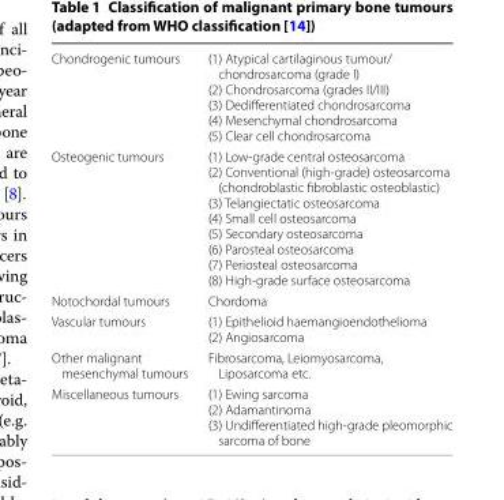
<table><tbody><tr><td>Chondrogenic tumours</td><td>(1) Atypical cartilaginous tumour/ chondrosarcoma (grade I) (2) Chondrosarcoma (grades II/III) (3) Dedifferentiated chondrosarcoma (4) Mesenchymal chondrosarcoma (5) Clear cell chondrosarcoma</td></tr><tr><td>Osteogenic tumours</td><td>(1) Low-grade central osteosarcoma (2) Conventional (high-grade) osteosarcoma (chondroblastic fibroblastic osteoblastic) (3) Telangiectatic osteosarcoma (4) Small cell osteosarcoma (5) Secondary osteosarcoma (6) Parosteal osteosarcoma (7) Periosteal osteosarcoma (8) High-grade surface osteosarcoma</td></tr><tr><td>Notochordal tumours</td><td>Chordoma</td></tr><tr><td>Vascular tumours</td><td>(1) Epithelioid haemangioendothelioma (2) Angiosarcoma</td></tr><tr><td>Other malignant mesenchymal tumours</td><td>Fibrosarcoma, Leiomyosarcoma, Liposarcoma etc.</td></tr><tr><td>Miscellaneous tumours</td><td>(1) Ewing sarcoma (2) Adamantinoma (3) Undifferentiated high-grade pleomorphic sarcoma of bone</td></tr></tbody></table>